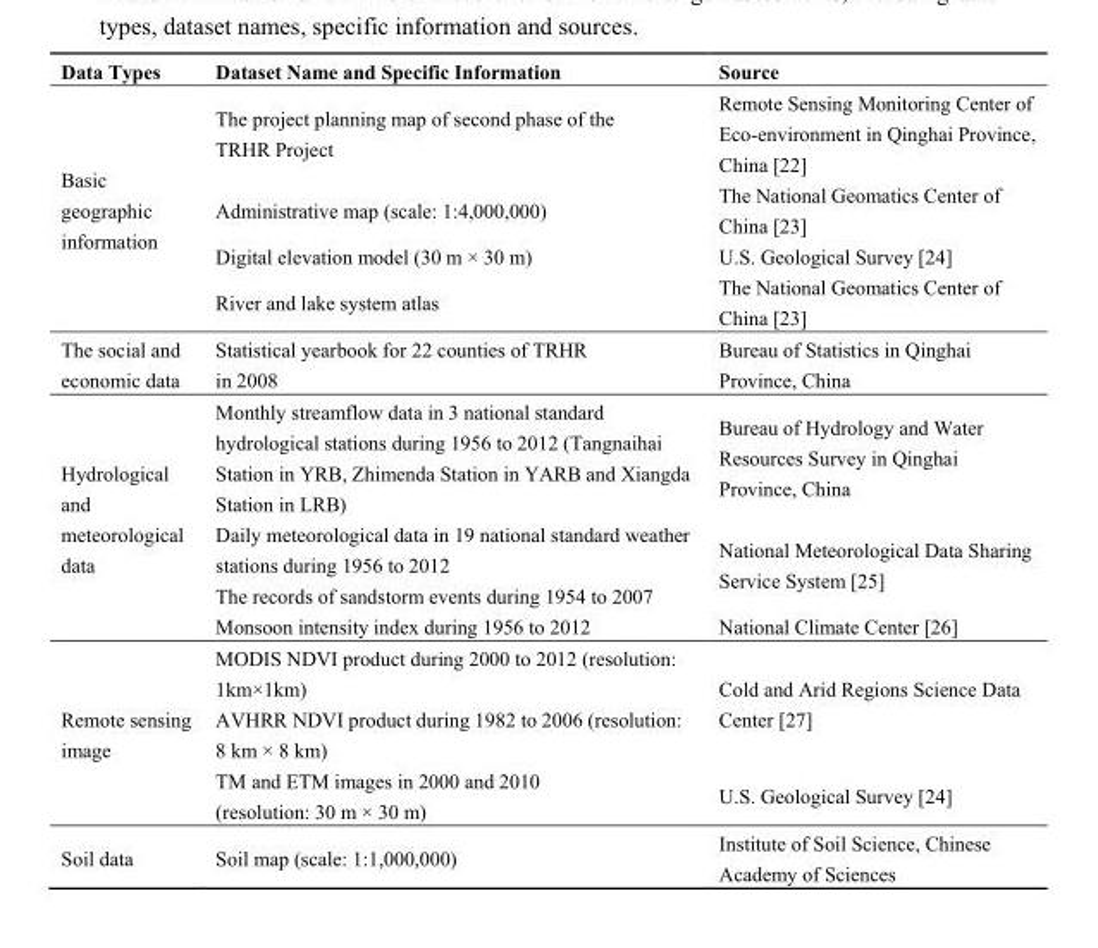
<table><thead><tr><td>Data Types</td><td>Dataset Name and Specific Information</td><td>Source</td></tr></thead><tbody><tr><td rowspan="4">Basic geographic information</td><td>The project planning map of second phase of the TRHR Project</td><td>Remote Sensing Monitoring Center of Eco-environment in Qinghai Province, China [22]</td></tr><tr><td>Administrative map (scale: 1:4,000,000)</td><td>The National Geomatics Center of China [23]</td></tr><tr><td>Digital elevation model (30 m × 30 m)</td><td>U.S. Geological Survey [24]</td></tr><tr><td>River and lake system atlas</td><td>The National Geomatics Center of China [23]</td></tr><tr><td>The social and economic data</td><td>Statistical yearbook for 22 counties of TRHR in 2008</td><td>Bureau of Statistics in Qinghai Province, China</td></tr><tr><td rowspan="4">Hydrological and meteorological data</td><td>Monthly streamflow data in 3 national standard hydrological stations during 1956 to 2012 (Tangnaihai Station in YRB, Zhimenda Station in YARB and Xiangda Station in LRB)</td><td>Bureau of Hydrology and Water Resources Survey in Qinghai Province, China</td></tr><tr><td>Daily meteorological data in 19 national standard weather stations during 1956 to 2012</td><td rowspan="2">National Meteorological Data Sharing Service System [25]</td></tr><tr><td>The records of sandstorm events during 1954 to 2007</td></tr><tr><td>Monsoon intensity index during 1956 to 2012</td><td>National Climate Center [26]</td></tr><tr><td rowspan="3">Remote sensing image</td><td>MODIS NDVI product during 2000 to 2012 (resolution: 1km×1km)</td><td rowspan="2">Cold and Arid Regions Science Data Center [27]</td></tr><tr><td>AVHRR NDVI product during 1982 to 2006 (resolution: 8 km × 8 km)</td></tr><tr><td>TM and ETM images in 2000 and 2010 (resolution: 30 m × 30 m)</td><td>U.S. Geological Survey [24]</td></tr><tr><td>Soil data</td><td>Soil map (scale: 1:1,000,000)</td><td>Institute of Soil Science, Chinese Academy of Sciences</td></tr></tbody></table>